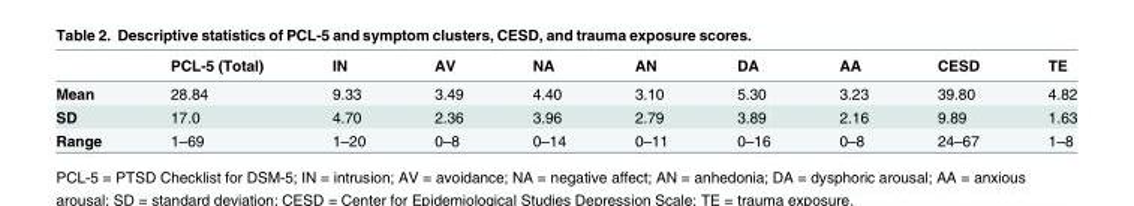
<table><thead><tr><td></td><td>PCL-5 (Total)</td><td>IN</td><td>AV</td><td>NA</td><td>AN</td><td>DA</td><td>AA</td><td>CESD</td><td>TE</td></tr></thead><tbody><tr><td>Mean</td><td>28.84</td><td>9.33</td><td>3.49</td><td>4.40</td><td>3.10</td><td>5.30</td><td>3.23</td><td>39.80</td><td>4.82</td></tr><tr><td>SD</td><td>17.0</td><td>4.70</td><td>2.36</td><td>3.96</td><td>2.79</td><td>3.89</td><td>2.16</td><td>9.89</td><td>1.63</td></tr><tr><td>Range</td><td>1–69</td><td>1–20</td><td>0–8</td><td>0–14</td><td>0–11</td><td>0–16</td><td>0–8</td><td>24–67</td><td>1–8</td></tr></tbody></table>